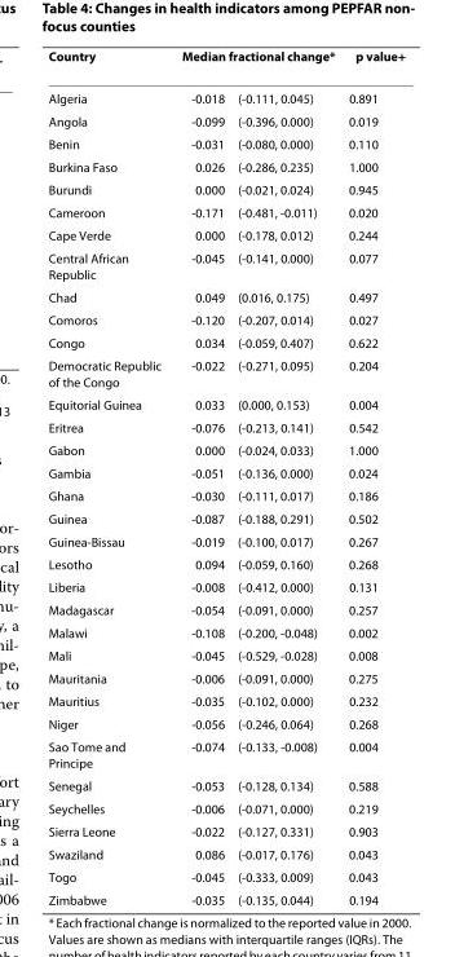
<table><thead><tr><td rowspan="2">Country Algeria</td><td colspan="2">Median fractional change*</td><td rowspan="2">p value<sup>+</sup> 0.891</td></tr><tr><td>-0.018</td><td>(-0.111, 0.045)</td></tr></thead><tbody><tr><td>Angola</td><td>-0.099</td><td>(-0.396, 0.000)</td><td>0.019</td></tr><tr><td>Benin</td><td>-0.031</td><td>(-0.080, 0.000)</td><td>0.110</td></tr><tr><td>Burkina Faso</td><td>0.026</td><td>(-0.286, 0.235)</td><td>1.000</td></tr><tr><td>Burundi</td><td>0.000</td><td>(-0.021, 0.024)</td><td>0.945</td></tr><tr><td>Cameroon</td><td>-0.171</td><td>(-0.481, -0.011)</td><td>0.020</td></tr><tr><td>Cape Verde</td><td>0.000</td><td>(-0.178, 0.012)</td><td>0.244</td></tr><tr><td>Central African Republic</td><td>-0.045</td><td>(-0.141, 0.000)</td><td>0.077</td></tr><tr><td>Chad</td><td>0.049</td><td>(0.016, 0.175)</td><td>0.497</td></tr><tr><td>Comoros</td><td>-0.120</td><td>(-0.207, 0.014)</td><td>0.027</td></tr><tr><td>Congo</td><td>0.034</td><td>(-0.059, 0.407)</td><td>0.622</td></tr><tr><td>Democratic Republic of the Congo</td><td>-0.022</td><td>(-0.271, 0.095)</td><td>0.204</td></tr><tr><td>Equitorial Guinea</td><td>0.033</td><td>(0.000, 0.153)</td><td>0.004</td></tr><tr><td>Eritrea</td><td>-0.076</td><td>(-0.213, 0.141)</td><td>0.542</td></tr><tr><td>Gabon</td><td>0.000</td><td>(-0.024, 0.033)</td><td>1.000</td></tr><tr><td>Gambia</td><td>-0.051</td><td>(-0.136, 0.000)</td><td>0.024</td></tr><tr><td>Ghana</td><td>-0.030</td><td>(-0.111, 0.017)</td><td>0.186</td></tr><tr><td>Guinea</td><td>-0.087</td><td>(-0.188, 0.291)</td><td>0.502</td></tr><tr><td>Guinea-Bissau</td><td>-0.019</td><td>(-0.100, 0.017)</td><td>0.267</td></tr><tr><td>Lesotho</td><td>0.094</td><td>(-0.059, 0.160)</td><td>0.268</td></tr><tr><td>Liberia</td><td>-0.008</td><td>(-0.412, 0.000)</td><td>0.131</td></tr><tr><td>Madagascar</td><td>-0.054</td><td>(-0.091, 0.000)</td><td>0.257</td></tr><tr><td>Malawi</td><td>-0.108</td><td>(-0.200, -0.048)</td><td>0.002</td></tr><tr><td>Mali</td><td>-0.045</td><td>(-0.529, -0.028)</td><td>0.008</td></tr><tr><td>Mauritania</td><td>-0.006</td><td>(-0.091, 0.000)</td><td>0.275</td></tr><tr><td>Mauritius</td><td>-0.035</td><td>(-0.102, 0.000)</td><td>0.232</td></tr><tr><td>Niger</td><td>-0.056</td><td>(-0.246, 0.064)</td><td>0.268</td></tr><tr><td>Sao Tome and Principe</td><td>-0.074</td><td>(-0.133, -0.008)</td><td>0.004</td></tr><tr><td>Senegal</td><td>-0.053</td><td>(-0.128, 0.134)</td><td>0.588</td></tr><tr><td>Seychelles</td><td>-0.006</td><td>(-0.071, 0.000)</td><td>0.219</td></tr><tr><td>Sierra Leone</td><td>-0.022</td><td>(-0.127, 0.331)</td><td>0.903</td></tr><tr><td>Swaziland</td><td>0.086</td><td>(-0.017, 0.176)</td><td>0.043</td></tr><tr><td>Togo</td><td>-0.045</td><td>(-0.333, 0.009)</td><td>0.043</td></tr><tr><td>Zimbabwe</td><td>-0.035</td><td>(-0.135, 0.044)</td><td>0.194</td></tr></tbody></table>